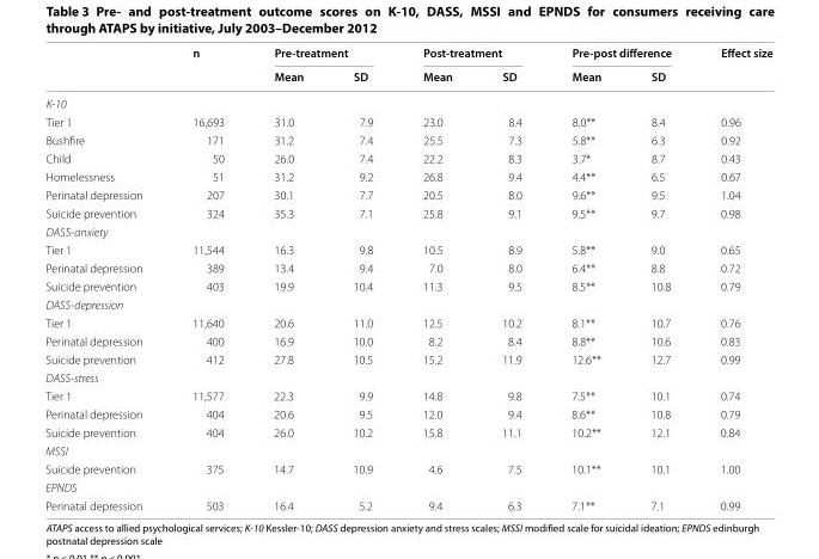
<table><thead><tr><td rowspan="2"></td><td rowspan="2">n</td><td colspan="2">Pre‑treatment</td><td colspan="2">Post‑treatment</td><td colspan="2">Pre‑post difference</td><td rowspan="2">Effect size</td></tr><tr><td>Mean</td><td>SD</td><td>Mean</td><td>SD</td><td>Mean</td><td>SD</td></tr></thead><tbody><tr><td colspan="9">K-10</td></tr><tr><td>Tier 1</td><td>16,693</td><td>31.0</td><td>7.9</td><td>23.0</td><td>8.4</td><td>8.0**</td><td>8.4</td><td>0.96</td></tr><tr><td>Bushfire</td><td>171</td><td>31.2</td><td>7.4</td><td>25.5</td><td>7.3</td><td>5.8**</td><td>6.3</td><td>0.92</td></tr><tr><td>Child</td><td>50</td><td>26.0</td><td>7.4</td><td>22.2</td><td>8.3</td><td>3.7*</td><td>8.7</td><td>0.43</td></tr><tr><td>Homelessness</td><td>51</td><td>31.2</td><td>9.2</td><td>26.8</td><td>9.4</td><td>4.4**</td><td>6.5</td><td>0.67</td></tr><tr><td>Perinatal depression</td><td>207</td><td>30.1</td><td>7.7</td><td>20.5</td><td>8.0</td><td>9.6**</td><td>9.5</td><td>1.04</td></tr><tr><td>Suicide prevention</td><td>324</td><td>35.3</td><td>7.1</td><td>25.8</td><td>9.1</td><td>9.5**</td><td>9.7</td><td>0.98</td></tr><tr><td colspan="9">DASS-anxiety</td></tr><tr><td>Tier 1</td><td>11,544</td><td>16.3</td><td>9.8</td><td>10.5</td><td>8.9</td><td>5.8**</td><td>9.0</td><td>0.65</td></tr><tr><td>Perinatal depression</td><td>389</td><td>13.4</td><td>9.4</td><td>7.0</td><td>8.0</td><td>6.4**</td><td>8.8</td><td>0.72</td></tr><tr><td>Suicide prevention</td><td>403</td><td>19.9</td><td>10.4</td><td>11.3</td><td>9.5</td><td>8.5**</td><td>10.8</td><td>0.79</td></tr><tr><td colspan="9">DASS-depression</td></tr><tr><td>Tier 1</td><td>11,640</td><td>20.6</td><td>11.0</td><td>12.5</td><td>10.2</td><td>8.1**</td><td>10.7</td><td>0.76</td></tr><tr><td>Perinatal depression</td><td>400</td><td>16.9</td><td>10.0</td><td>8.2</td><td>8.4</td><td>8.8**</td><td>10.6</td><td>0.83</td></tr><tr><td>Suicide prevention</td><td>412</td><td>27.8</td><td>10.5</td><td>15.2</td><td>11.9</td><td>12.6**</td><td>12.7</td><td>0.99</td></tr><tr><td colspan="9">DASS-stress</td></tr><tr><td>Tier 1</td><td>11,577</td><td>22.3</td><td>9.9</td><td>14.8</td><td>9.8</td><td>7.5**</td><td>10.1</td><td>0.74</td></tr><tr><td>Perinatal depression</td><td>404</td><td>20.6</td><td>9.5</td><td>12.0</td><td>9.4</td><td>8.6**</td><td>10.8</td><td>0.79</td></tr><tr><td>Suicide prevention</td><td>404</td><td>26.0</td><td>10.2</td><td>15.8</td><td>11.1</td><td>10.2**</td><td>12.1</td><td>0.84</td></tr><tr><td colspan="9">MSSI</td></tr><tr><td>Suicide prevention</td><td>375</td><td>14.7</td><td>10.9</td><td>4.6</td><td>7.5</td><td>10.1**</td><td>10.1</td><td>1.00</td></tr><tr><td colspan="9">EPNDS</td></tr><tr><td>Perinatal depression</td><td>503</td><td>16.4</td><td>5.2</td><td>9.4</td><td>6.3</td><td>7.1**</td><td>7.1</td><td>0.99</td></tr></tbody></table>